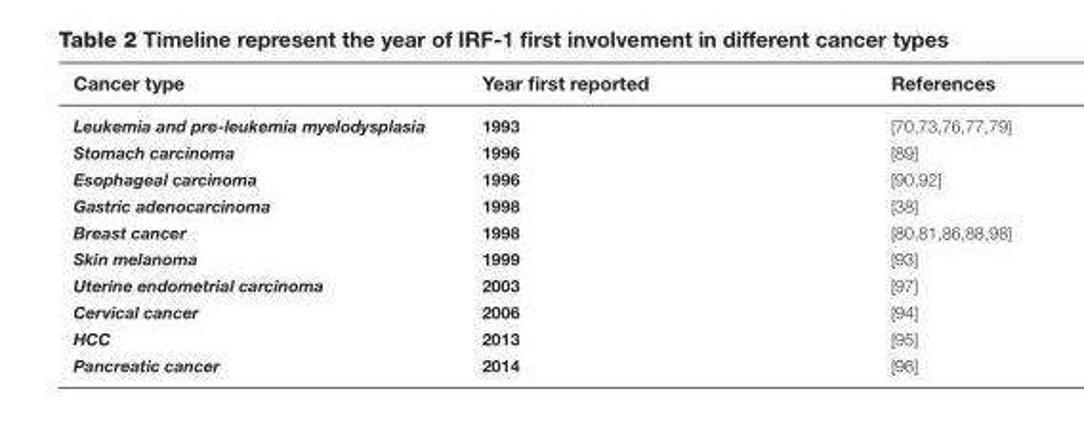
<table><thead><tr><td>Cancer type</td><td>Year first reported</td><td>References</td></tr></thead><tbody><tr><td>Leukemia and pre-leukemia myelodysplasia</td><td>1993</td><td>[70,73,76,77,79]</td></tr><tr><td>Stomach carcinoma</td><td>1996</td><td>[89]</td></tr><tr><td>Esophageal carcinoma</td><td>1996</td><td>[90,92]</td></tr><tr><td>Gastric adenocarcinoma</td><td>1998</td><td>[38]</td></tr><tr><td>Breast cancer</td><td>1998</td><td>[80,81,86,88,98]</td></tr><tr><td>Skin melanoma</td><td>1999</td><td>[93]</td></tr><tr><td>Uterine endometrial carcinoma</td><td>2003</td><td>[97]</td></tr><tr><td>Cervical cancer</td><td>2006</td><td>[94]</td></tr><tr><td>HCC</td><td>2013</td><td>[95]</td></tr><tr><td>Pancreatic cancer</td><td>2014</td><td>[96]</td></tr></tbody></table>